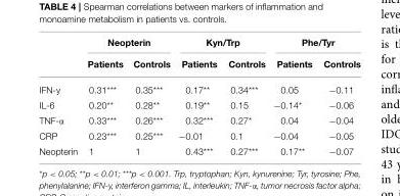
<table><thead><tr><td rowspan="2"></td><td colspan="2">Neopterin</td><td colspan="2">Kyn/Trp</td><td colspan="2">Phe/Tyr</td></tr><tr><td>Patients</td><td>Controls</td><td>Patients</td><td>Controls</td><td>Patients</td><td>Controls</td></tr></thead><tbody><tr><td>IFN-y</td><td>0.31***</td><td>0.35***</td><td>0.17**</td><td>0.34***</td><td>0.05</td><td>−0.11</td></tr><tr><td>IL-6</td><td>0.20**</td><td>0.28**</td><td>0.19**</td><td>0.15</td><td>−0.14*</td><td>−0.06</td></tr><tr><td>TNF-α</td><td>0.33***</td><td>0.26***</td><td>0.32***</td><td>0.27*</td><td>0.04</td><td>−0.04</td></tr><tr><td>CRP</td><td>0.23***</td><td>0.25***</td><td>−0.01</td><td>0.1</td><td>−0.04</td><td>−0.05</td></tr><tr><td>Neopterin</td><td>1</td><td>1</td><td>0.43***</td><td>0.27***</td><td>0.17**</td><td>−0.07</td></tr></tbody></table>